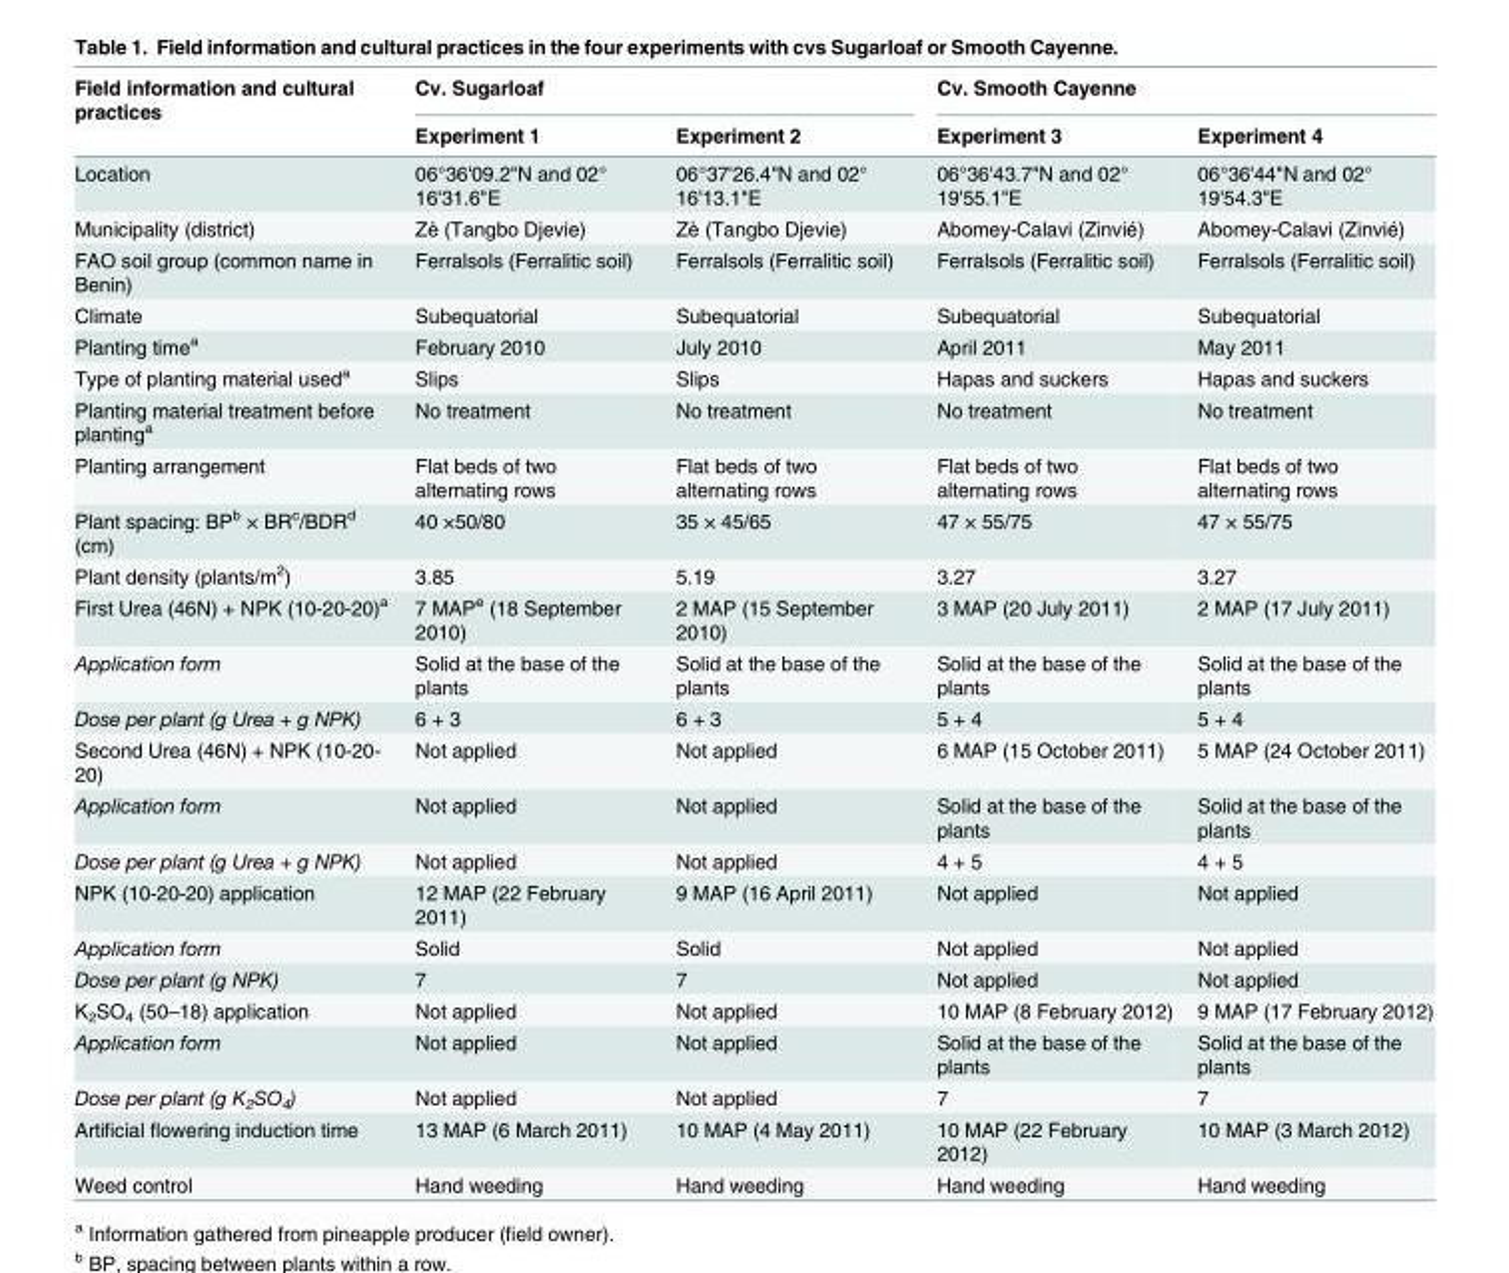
<table><thead><tr><td rowspan="2">Field information and cultural practices</td><td colspan="2">Cv. Sugarloaf</td><td colspan="2">Cv. Smooth Cayenne</td></tr><tr><td>Experiment 1</td><td>Experiment 2</td><td>Experiment 3</td><td>Experiment 4</td></tr></thead><tbody><tr><td>Location</td><td>06°36&#x27;09.2&quot;N and 02° 16&#x27;31.6&quot;E</td><td>06°37&#x27;26.4&quot;N and 02° 16&#x27;13.1&quot;E</td><td>06°36&#x27;43.7&quot;N and 02° 19&#x27;55.1&quot;E</td><td>06°36&#x27;44&quot;N and 02° 19&#x27;54.3&quot;E</td></tr><tr><td>Municipality (district)</td><td>Zè (Tangbo Djevie)</td><td>Zè (Tangbo Djevie)</td><td>Abomey-Calavi (Zinvié)</td><td>Abomey-Calavi (Zinvié)</td></tr><tr><td>FAO soil group (common name in Benin)</td><td>Ferralsols (Ferralitic soil)</td><td>Ferralsols (Ferralitic soil)</td><td>Ferralsols (Ferralitic soil)</td><td>Ferralsols (Ferralitic soil)</td></tr><tr><td>Climate</td><td>Subequatorial</td><td>Subequatorial</td><td>Subequatorial</td><td>Subequatorial</td></tr><tr><td>Planting time<sup>a</sup></td><td>February 2010</td><td>July 2010</td><td>April 2011</td><td>May 2011</td></tr><tr><td>Type of planting material used<sup>a</sup></td><td>Slips</td><td>Slips</td><td>Hapas and suckers</td><td>Hapas and suckers</td></tr><tr><td>Planting material treatment before planting<sup>a</sup></td><td>No treatment</td><td>No treatment</td><td>No treatment</td><td>No treatment</td></tr><tr><td>Planting arrangement</td><td>Flat beds of two alternating rows</td><td>Flat beds of two alternating rows</td><td>Flat beds of two alternating rows</td><td>Flat beds of two alternating rows</td></tr><tr><td>Plant spacing: BP<sup>b</sup> × BR<sup>c</sup>/BDR<sup>d</sup> (cm)</td><td>40 ×50/80</td><td>35 × 45/65</td><td>47 × 55/75</td><td>47 × 55/75</td></tr><tr><td>Plant density (plants/m<sup>2</sup>)</td><td>3.85</td><td>5.19</td><td>3.27</td><td>3.27</td></tr><tr><td>First Urea (46N) + NPK (10-20-20)<sup>a</sup></td><td>7 MAP<sup>e</sup> (18 September 2010)</td><td>2 MAP (15 September 2010)</td><td>3 MAP (20 July 2011)</td><td>2 MAP (17 July 2011)</td></tr><tr><td>Application form</td><td>Solid at the base of the plants</td><td>Solid at the base of the plants</td><td>Solid at the base of the plants</td><td>Solid at the base of the plants</td></tr><tr><td>Dose per plant (g Urea + g NPK)</td><td>6 + 3</td><td>6 + 3</td><td>5 + 4</td><td>5 + 4</td></tr><tr><td>Second Urea (46N) + NPK (10-20- 20)</td><td>Not applied</td><td>Not applied</td><td>6 MAP (15 October 2011)</td><td>5 MAP (24 October 2011)</td></tr><tr><td>Application form</td><td>Not applied</td><td>Not applied</td><td>Solid at the base of the plants</td><td>Solid at the base of the plants</td></tr><tr><td>Dose per plant (g Urea + g NPK)</td><td>Not applied</td><td>Not applied</td><td>4 + 5</td><td>4 + 5</td></tr><tr><td>NPK (10-20-20) application</td><td>12 MAP (22 February 2011)</td><td>9 MAP (16 April 2011)</td><td>Not applied</td><td>Not applied</td></tr><tr><td>Application form</td><td>Solid</td><td>Solid</td><td>Not applied</td><td>Not applied</td></tr><tr><td>Dose per plant (g NPK)</td><td>7</td><td>7</td><td>Not applied</td><td>Not applied</td></tr><tr><td>K<sub>2</sub>SO<sub>4</sub> (50–18) application</td><td>Not applied</td><td>Not applied</td><td>10 MAP (8 February 2012)</td><td>9 MAP (17 February 2012)</td></tr><tr><td>Application form</td><td>Not applied</td><td>Not applied</td><td>Solid at the base of the plants</td><td>Solid at the base of the plants</td></tr><tr><td>Dose per plant (g K<sub>2</sub>SO<sub>4</sub>)</td><td>Not applied</td><td>Not applied</td><td>7</td><td>7</td></tr><tr><td>Artificial flowering induction time</td><td>13 MAP (6 March 2011)</td><td>10 MAP (4 May 2011)</td><td>10 MAP (22 February 2012)</td><td>10 MAP (3 March 2012)</td></tr><tr><td>Weed control</td><td>Hand weeding</td><td>Hand weeding</td><td>Hand weeding</td><td>Hand weeding</td></tr></tbody></table>